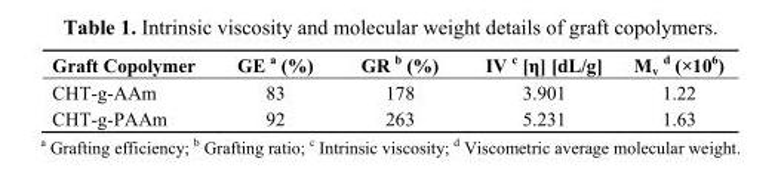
<table><thead><tr><td>Graft Copolymer</td><td>GE a (%)</td><td>GR b (%)</td><td>IV c [η] [dL/g]</td><td>M<sub>v</sub> <sup>d</sup> (×10<sup>6</sup>)</td></tr></thead><tbody><tr><td>CHT-g-AAm</td><td>83</td><td>178</td><td>3.901</td><td>1.22</td></tr><tr><td>CHT-g-PAAm</td><td>92</td><td>263</td><td>5.231</td><td>1.63</td></tr></tbody></table>